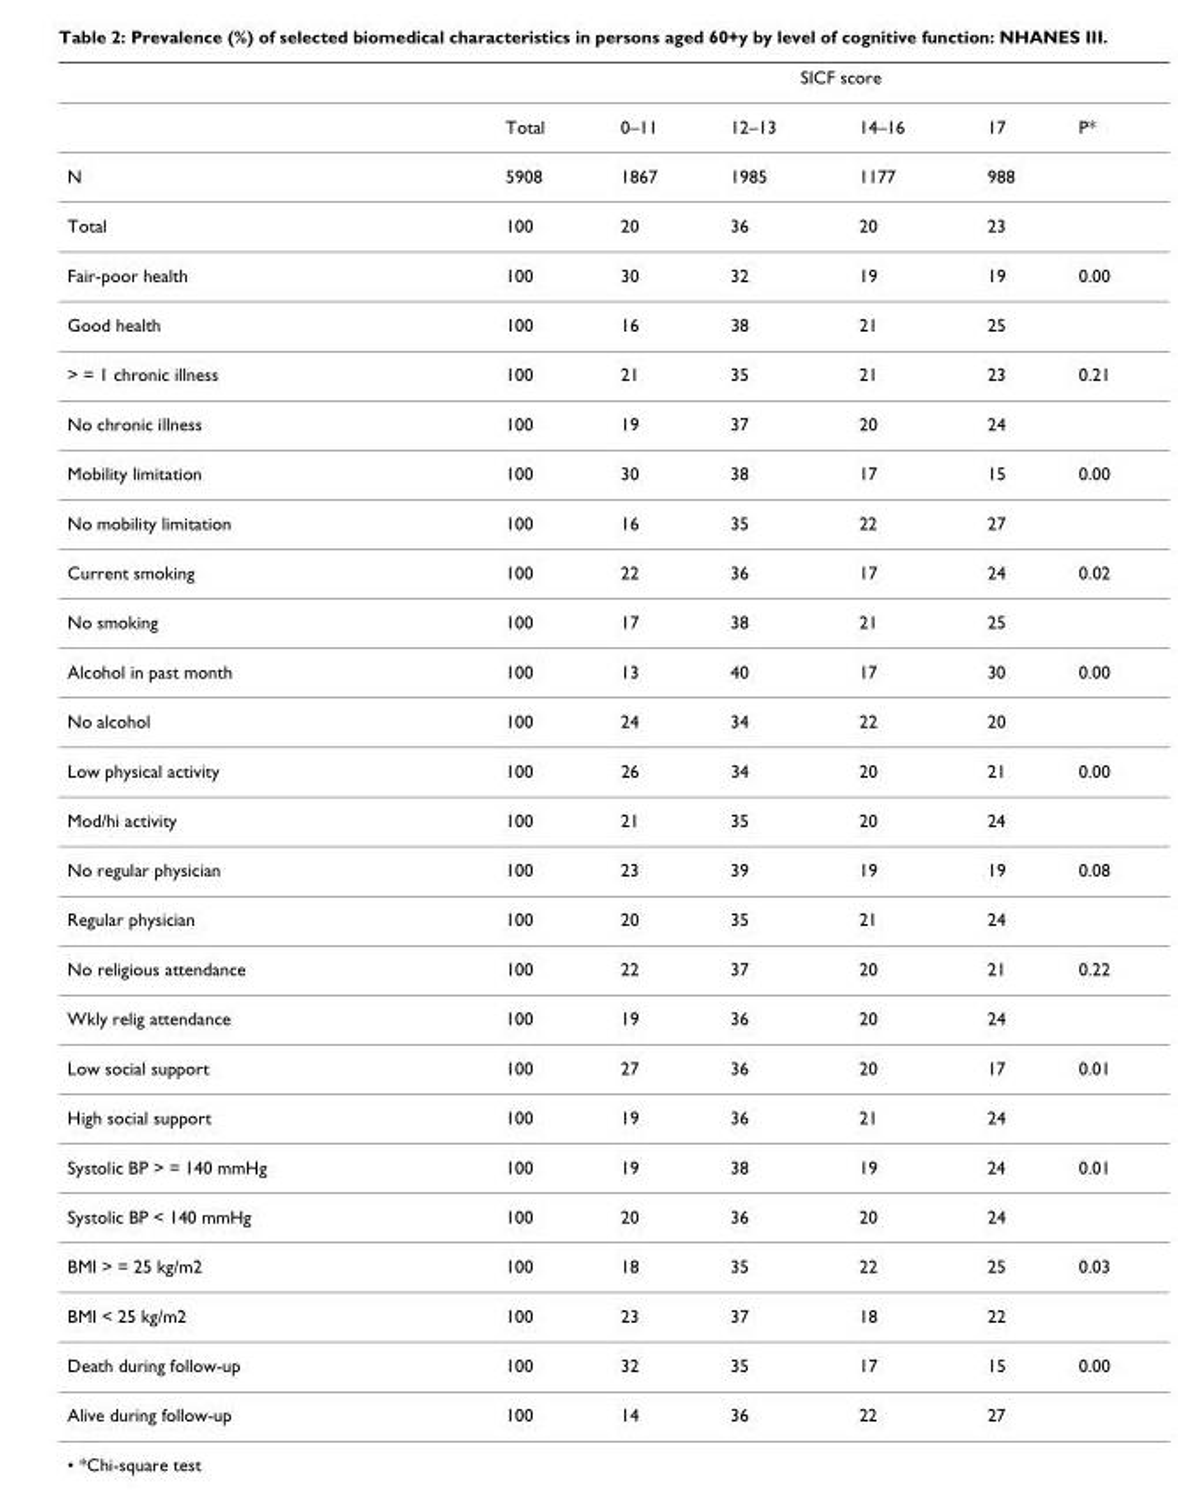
<table><thead><tr><td rowspan="2"></td><td rowspan="2">Total</td><td colspan="4">SICF score</td><td rowspan="2">P*</td></tr><tr><td>0–11</td><td>12–13</td><td>14–16</td><td>17</td></tr></thead><tbody><tr><td>N</td><td>5908</td><td>1867</td><td>1985</td><td>1177</td><td>988</td><td></td></tr><tr><td>Total</td><td>100</td><td>20</td><td>36</td><td>20</td><td>23</td><td></td></tr><tr><td>Fair-poor health</td><td>100</td><td>30</td><td>32</td><td>19</td><td>19</td><td>0.00</td></tr><tr><td>Good health</td><td>100</td><td>16</td><td>38</td><td>21</td><td>25</td><td></td></tr><tr><td>&gt; = 1 chronic illness</td><td>100</td><td>21</td><td>35</td><td>21</td><td>23</td><td>0.21</td></tr><tr><td>No chronic illness</td><td>100</td><td>19</td><td>37</td><td>20</td><td>24</td><td></td></tr><tr><td>Mobility limitation</td><td>100</td><td>30</td><td>38</td><td>17</td><td>15</td><td>0.00</td></tr><tr><td>No mobility limitation</td><td>100</td><td>16</td><td>35</td><td>22</td><td>27</td><td></td></tr><tr><td>Current smoking</td><td>100</td><td>22</td><td>36</td><td>17</td><td>24</td><td>0.02</td></tr><tr><td>No smoking</td><td>100</td><td>17</td><td>38</td><td>21</td><td>25</td><td></td></tr><tr><td>Alcohol in past month</td><td>100</td><td>13</td><td>40</td><td>17</td><td>30</td><td>0.00</td></tr><tr><td>No alcohol</td><td>100</td><td>24</td><td>34</td><td>22</td><td>20</td><td></td></tr><tr><td>Low physical activity</td><td>100</td><td>26</td><td>34</td><td>20</td><td>21</td><td>0.00</td></tr><tr><td>Mod/hi activity</td><td>100</td><td>21</td><td>35</td><td>20</td><td>24</td><td></td></tr><tr><td>No regular physician</td><td>100</td><td>23</td><td>39</td><td>19</td><td>19</td><td>0.08</td></tr><tr><td>Regular physician</td><td>100</td><td>20</td><td>35</td><td>21</td><td>24</td><td></td></tr><tr><td>No religious attendance</td><td>100</td><td>22</td><td>37</td><td>20</td><td>21</td><td>0.22</td></tr><tr><td>Wkly relig attendance</td><td>100</td><td>19</td><td>36</td><td>20</td><td>24</td><td></td></tr><tr><td>Low social support</td><td>100</td><td>27</td><td>36</td><td>20</td><td>17</td><td>0.01</td></tr><tr><td>High social support</td><td>100</td><td>19</td><td>36</td><td>21</td><td>24</td><td></td></tr><tr><td>Systolic BP &gt; = 140 mmHg</td><td>100</td><td>19</td><td>38</td><td>19</td><td>24</td><td>0.01</td></tr><tr><td>Systolic BP &lt; 140 mmHg</td><td>100</td><td>20</td><td>36</td><td>20</td><td>24</td><td></td></tr><tr><td>BMI &gt; = 25 kg/m2</td><td>100</td><td>18</td><td>35</td><td>22</td><td>25</td><td>0.03</td></tr><tr><td>BMI &lt; 25 kg/m2</td><td>100</td><td>23</td><td>37</td><td>18</td><td>22</td><td></td></tr><tr><td>Death during follow-up</td><td>100</td><td>32</td><td>35</td><td>17</td><td>15</td><td>0.00</td></tr><tr><td>Alive during follow-up</td><td>100</td><td>14</td><td>36</td><td>22</td><td>27</td><td></td></tr></tbody></table>